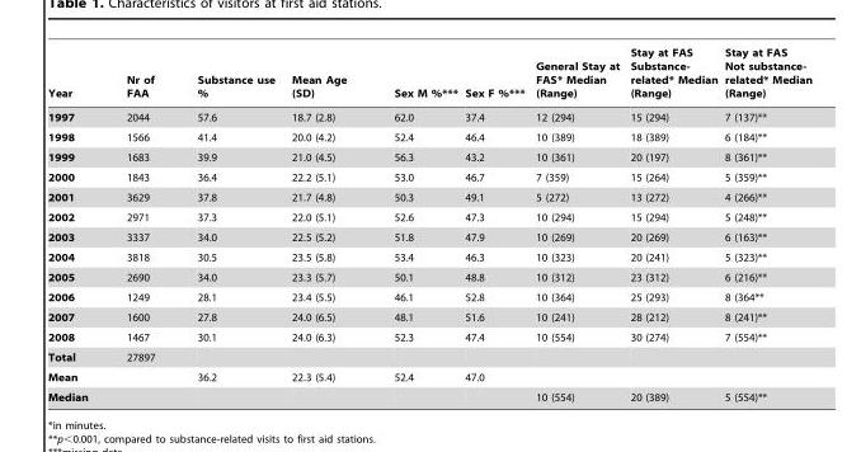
<table><thead><tr><td>Year</td><td>Nr of FAA</td><td>Substance use %</td><td>Mean Age (SD)</td><td>Sex M %***</td><td>Sex F %***</td><td>General Stay at FAS* Median (Range)</td><td>Stay at FAS Substance- related* Median (Range)</td><td>Stay at FAS Not substance- related* Median (Range)</td></tr></thead><tbody><tr><td>1997</td><td>2044</td><td>57.6</td><td>18.7 (2.8)</td><td>62.0</td><td>37.4</td><td>12 (294)</td><td>15 (294)</td><td>7 (137)**</td></tr><tr><td>1998</td><td>1566</td><td>41.4</td><td>20.0 (4.2)</td><td>52.4</td><td>46.4</td><td>10 (389)</td><td>18 (389)</td><td>6 (184)**</td></tr><tr><td>1999</td><td>1683</td><td>39.9</td><td>21.0 (4.5)</td><td>56.3</td><td>43.2</td><td>10 (361)</td><td>20 (197)</td><td>8 (361)**</td></tr><tr><td>2000</td><td>1843</td><td>36.4</td><td>22.2 (5.1)</td><td>53.0</td><td>46.7</td><td>7 (359)</td><td>15 (264)</td><td>5 (359)**</td></tr><tr><td>2001</td><td>3629</td><td>37.8</td><td>21.7 (4.8)</td><td>50.3</td><td>49.1</td><td>5 (272)</td><td>13 (272)</td><td>4 (266)**</td></tr><tr><td>2002</td><td>2971</td><td>37.3</td><td>22.0 (5.1)</td><td>52.6</td><td>47.3</td><td>10 (294)</td><td>15 (294)</td><td>5 (248)**</td></tr><tr><td>2003</td><td>3337</td><td>34.0</td><td>22.5 (5.2)</td><td>51.8</td><td>47.9</td><td>10 (269)</td><td>20 (269)</td><td>6 (163)**</td></tr><tr><td>2004</td><td>3818</td><td>30.5</td><td>23.5 (5.8)</td><td>53.4</td><td>46.3</td><td>10 (323)</td><td>20 (241)</td><td>5 (323)**</td></tr><tr><td>2005</td><td>2690</td><td>34.0</td><td>23.3 (5.7)</td><td>50.1</td><td>48.8</td><td>10 (312)</td><td>23 (312)</td><td>6 (216)**</td></tr><tr><td>2006</td><td>1249</td><td>28.1</td><td>23.4 (5.5)</td><td>46.1</td><td>52.8</td><td>10 (364)</td><td>25 (293)</td><td>8 (364**</td></tr><tr><td>2007</td><td>1600</td><td>27.8</td><td>24.0 (6.5)</td><td>48.1</td><td>51.6</td><td>10 (241)</td><td>28 (212)</td><td>8 (241)**</td></tr><tr><td>2008</td><td>1467</td><td>30.1</td><td>24.0 (6.3)</td><td>52.3</td><td>47.4</td><td>10 (554)</td><td>30 (274)</td><td>7 (554)**</td></tr><tr><td>Total</td><td>27897</td><td></td><td></td><td></td><td></td><td></td><td></td><td></td></tr><tr><td>Mean</td><td></td><td>36.2</td><td>22.3 (5.4)</td><td>52.4</td><td>47.0</td><td></td><td></td><td></td></tr><tr><td>Median</td><td></td><td></td><td></td><td></td><td></td><td>10 (554)</td><td>20 (389)</td><td>5 (554)**</td></tr></tbody></table>